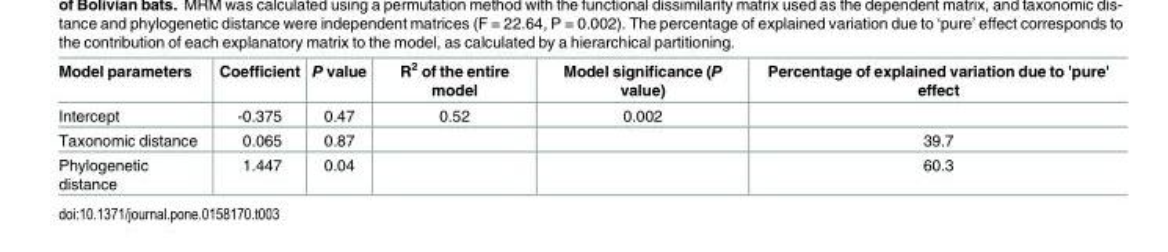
<table><thead><tr><td>Model parameters</td><td>Coefficient</td><td>P value</td><td>R<sup>2</sup> of the entire model</td><td>Model significance (P value)</td><td>Percentage of explained variation due to &#x27;pure&#x27; effect</td></tr></thead><tbody><tr><td>Intercept</td><td>-0.375</td><td>0.47</td><td>0.52</td><td>0.002</td><td></td></tr><tr><td>Taxonomic distance</td><td>0.065</td><td>0.87</td><td></td><td></td><td>39.7</td></tr><tr><td>Phylogenetic distance</td><td>1.447</td><td>0.04</td><td></td><td></td><td>60.3</td></tr></tbody></table>